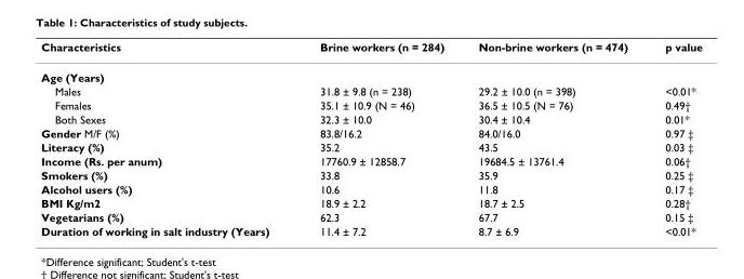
<table><thead><tr><td>Characteristics</td><td>Brine workers (n = 284)</td><td>Non-brine workers (n = 474)</td><td>p value</td></tr></thead><tbody><tr><td colspan="4">Age (Years)</td></tr><tr><td>Males</td><td>31.8 ± 9.8 (n = 238)</td><td>29.2 ± 10.0 (n = 398)</td><td>&lt;0.01*</td></tr><tr><td>Females</td><td>35.1 ± 10.9 (N = 46)</td><td>36.5 ± 10.5 (N = 76)</td><td>0.49†</td></tr><tr><td>Both Sexes</td><td>32.3 ± 10.0</td><td>30.4 ± 10.4</td><td>0.01*</td></tr><tr><td>Gender M/F (%)</td><td>83.8/16.2</td><td>84.0/16.0</td><td>0.97 ‡</td></tr><tr><td>Literacy (%)</td><td>35.2</td><td>43.5</td><td>0.03 ‡</td></tr><tr><td>Income (Rs. per anum)</td><td>17760.9 ± 12858.7</td><td>19684.5 ± 13761.4</td><td>0.06†</td></tr><tr><td>Smokers (%)</td><td>33.8</td><td>35.9</td><td>0.25 ‡</td></tr><tr><td>Alcohol users (%)</td><td>10.6</td><td>11.8</td><td>0.17 ‡</td></tr><tr><td>BMI Kg/m2</td><td>18.9 ± 2.2</td><td>18.7 ± 2.5</td><td>0.28†</td></tr><tr><td>Vegetarians (%)</td><td>62.3</td><td>67.7</td><td>0.15 ‡</td></tr><tr><td>Duration of working in salt industry (Years)</td><td>11.4 ± 7.2</td><td>8.7 ± 6.9</td><td>&lt;0.01*</td></tr></tbody></table>